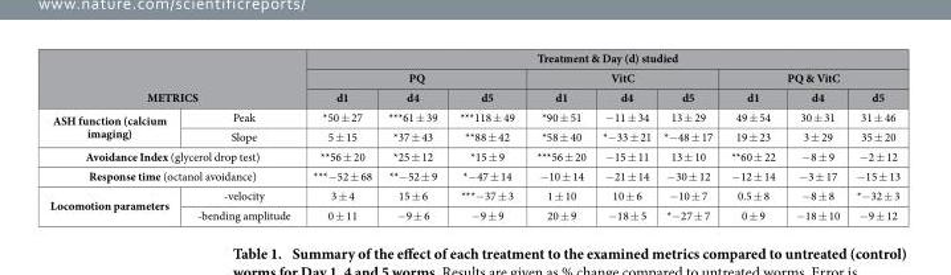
<table><thead><tr><td rowspan="2"></td><td rowspan="2"></td><td colspan="9">Treatment &amp; Day (d) studied</td></tr><tr><td colspan="3">PQ</td><td colspan="3">VitC</td><td colspan="3">PQ &amp; VitC</td></tr><tr><td colspan="2">METRICS</td><td>d1</td><td>d4</td><td>d5</td><td>d1</td><td>d4</td><td>d5</td><td>d1</td><td>d4</td><td>d5</td></tr></thead><tbody><tr><td rowspan="2">ASH function (calcium imaging)</td><td>Peak</td><td>*50 ± 27</td><td>***61 ± 39</td><td>***118 ± 49</td><td>*90 ± 51</td><td>− 11 ± 34</td><td>13 ± 29</td><td>49 ± 54</td><td>30 ± 31</td><td>31 ± 46</td></tr><tr><td>Slope</td><td>5 ± 15</td><td>*37 ± 43</td><td>**88 ± 42</td><td>*58 ± 40</td><td>*− 33 ± 21</td><td>*− 48 ± 17</td><td>19 ± 23</td><td>3 ± 29</td><td>35 ± 20</td></tr><tr><td colspan="2">Avoidance Index (glycerol drop test)</td><td>**56 ± 20</td><td>*25 ± 12</td><td>*15 ± 9</td><td>***56 ± 20</td><td>− 15 ± 11</td><td>13 ± 10</td><td>**60 ± 22</td><td>− 8 ± 9</td><td>− 2 ± 12</td></tr><tr><td colspan="2">Response time (octanol avoidance)</td><td>***− 52 ± 68</td><td>**− 52 ± 9</td><td>*− 47 ± 14</td><td>− 10 ± 14</td><td>− 21 ± 14</td><td>− 30 ± 12</td><td>− 12 ± 14</td><td>− 3 ± 17</td><td>− 15 ± 13</td></tr><tr><td rowspan="2">Locomotion parameters</td><td>-velocity</td><td>3 ± 4</td><td>15 ± 6</td><td>***− 37 ± 3</td><td>1 ± 10</td><td>10 ± 6</td><td>− 10 ± 7</td><td>0.5 ± 8</td><td>− 8 ± 8</td><td>*− 32 ± 3</td></tr><tr><td>-bending amplitude</td><td>0 ± 11</td><td>− 9 ± 6</td><td>− 9 ± 9</td><td>20 ± 9</td><td>− 18 ± 5</td><td>*− 27 ± 7</td><td>0 ± 9</td><td>− 18 ± 10</td><td>− 9 ± 12</td></tr></tbody></table>